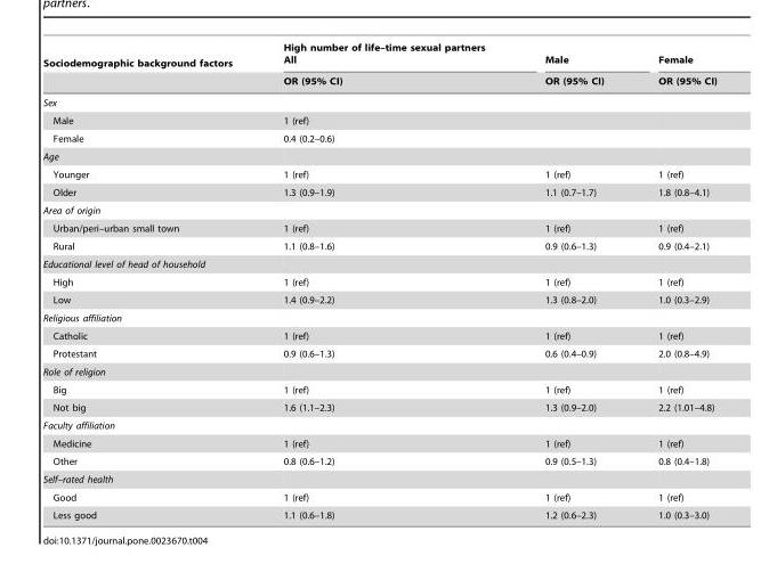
<table><thead><tr><td rowspan="2">Sociodemographic background factors</td><td rowspan="2">High number of life–time sexual partners All OR (95% CI)</td><td rowspan="2">Male OR (95% CI)</td><td rowspan="2">Female OR (95% CI)</td></tr><tr></tr></thead><tbody><tr><td colspan="4">Sex</td></tr><tr><td>Male</td><td>1 (ref)</td><td></td><td></td></tr><tr><td>Female</td><td>0.4 (0.2–0.6)</td><td></td><td></td></tr><tr><td colspan="4">Age</td></tr><tr><td>Younger</td><td>1 (ref)</td><td>1 (ref)</td><td>1 (ref)</td></tr><tr><td>Older</td><td>1.3 (0.9–1.9)</td><td>1.1 (0.7–1.7)</td><td>1.8 (0.8–4.1)</td></tr><tr><td colspan="4">Area of origin</td></tr><tr><td>Urban/peri–urban small town</td><td>1 (ref)</td><td>1 (ref)</td><td>1 (ref)</td></tr><tr><td>Rural</td><td>1.1 (0.8–1.6)</td><td>0.9 (0.6–1.3)</td><td>0.9 (0.4–2.1)</td></tr><tr><td colspan="4">Educational level of head of household</td></tr><tr><td>High</td><td>1 (ref)</td><td>1 (ref)</td><td>1 (ref)</td></tr><tr><td>Low</td><td>1.4 (0.9–2.2)</td><td>1.3 (0.8–2.0)</td><td>1.0 (0.3–2.9)</td></tr><tr><td colspan="4">Religious affiliation</td></tr><tr><td>Catholic</td><td>1 (ref)</td><td>1 (ref)</td><td>1 (ref)</td></tr><tr><td>Protestant</td><td>0.9 (0.6–1.3)</td><td>0.6 (0.4–0.9)</td><td>2.0 (0.8–4.9)</td></tr><tr><td colspan="4">Role of religion</td></tr><tr><td>Big</td><td>1 (ref)</td><td>1 (ref)</td><td>1 (ref)</td></tr><tr><td>Not big</td><td>1.6 (1.1–2.3)</td><td>1.3 (0.9–2.0)</td><td>2.2 (1.01–4.8)</td></tr><tr><td colspan="4">Faculty affiliation</td></tr><tr><td>Medicine</td><td>1 (ref)</td><td>1 (ref)</td><td>1 (ref)</td></tr><tr><td>Other</td><td>0.8 (0.6–1.2)</td><td>0.9 (0.5–1.3)</td><td>0.8 (0.4–1.8)</td></tr><tr><td colspan="4">Self–rated health</td></tr><tr><td>Good</td><td>1 (ref)</td><td>1 (ref)</td><td>1 (ref)</td></tr><tr><td>Less good</td><td>1.1 (0.6–1.8)</td><td>1.2 (0.6–2.3)</td><td>1.0 (0.3–3.0)</td></tr></tbody></table>